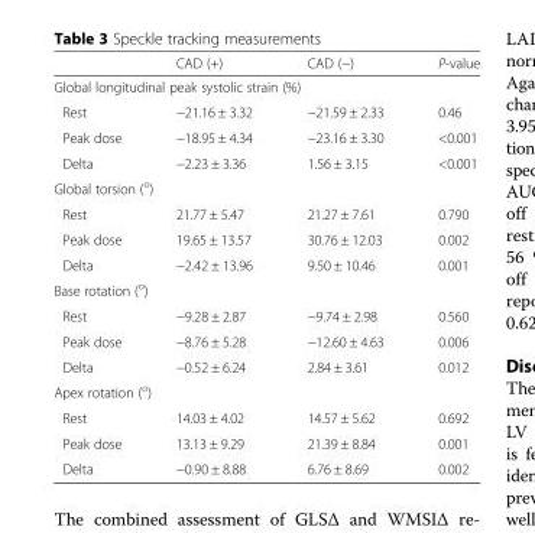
<table><thead><tr><td></td><td>CAD (+)</td><td>CAD (−)</td><td>P-value</td></tr></thead><tbody><tr><td colspan="4">Global longitudinal peak systolic strain (%)</td></tr><tr><td>Rest</td><td>−21.16 ± 3.32</td><td>−21.59 ± 2.33</td><td>0.46</td></tr><tr><td>Peak dose</td><td>−18.95 ± 4.34</td><td>−23.16 ± 3.30</td><td>&lt;0.001</td></tr><tr><td>Delta</td><td>−2.23 ± 3.36</td><td>1.56 ± 3.15</td><td>&lt;0.001</td></tr><tr><td colspan="4">Global torsion (<sup>o</sup>)</td></tr><tr><td>Rest</td><td>21.77 ± 5.47</td><td>21.27 ± 7.61</td><td>0.790</td></tr><tr><td>Peak dose</td><td>19.65 ± 13.57</td><td>30.76 ± 12.03</td><td>0.002</td></tr><tr><td>Delta</td><td>−2.42 ± 13.96</td><td>9.50 ± 10.46</td><td>0.001</td></tr><tr><td colspan="4">Base rotation (<sup>o</sup>)</td></tr><tr><td>Rest</td><td>−9.28 ± 2.87</td><td>−9.74 ± 2.98</td><td>0.560</td></tr><tr><td>Peak dose</td><td>−8.76 ± 5.28</td><td>−12.60 ± 4.63</td><td>0.006</td></tr><tr><td>Delta</td><td>−0.52 ± 6.24</td><td>2.84 ± 3.61</td><td>0.012</td></tr><tr><td colspan="4">Apex rotation (<sup>o</sup>)</td></tr><tr><td>Rest</td><td>14.03 ± 4.02</td><td>14.57 ± 5.62</td><td>0.692</td></tr><tr><td>Peak dose</td><td>13.13 ± 9.29</td><td>21.39 ± 8.84</td><td>0.001</td></tr><tr><td>Delta</td><td>−0.90 ± 8.88</td><td>6.76 ± 8.69</td><td>0.002</td></tr></tbody></table>